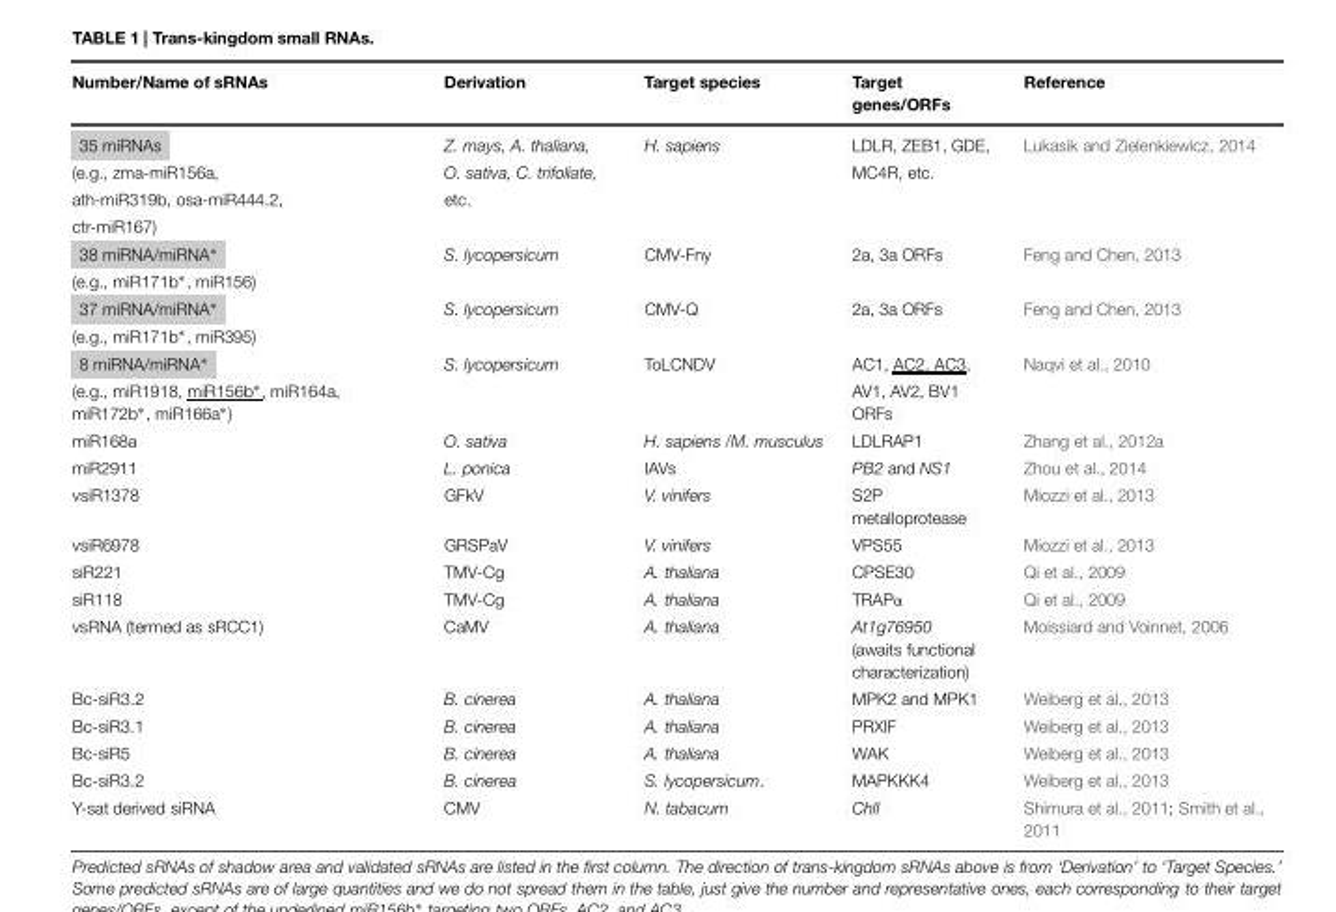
<table><thead><tr><td>Number/Name of sRNAs</td><td>Derivation</td><td>Target species</td><td>Target genes/ORFs</td><td>Reference</td></tr></thead><tbody><tr><td>35 miRNAs</td><td>Z. mays, A. thaliana,</td><td>H. sapiens</td><td>LDLR, ZEB1, GDE,</td><td>Lukasik and Zielenkiewicz, 2014</td></tr><tr><td>(e.g., zma-miR156a,</td><td>O. sativa, C. trifoliate,</td><td></td><td>MC4R, etc.</td><td></td></tr><tr><td>ath-miR319b, osa-miR444.2,</td><td>etc.</td><td></td><td></td><td></td></tr><tr><td colspan="5">ctr-miR167)</td></tr><tr><td>38 miRNA/miRNA∗</td><td>S. lycopersicum</td><td>CMV-Fny</td><td>2a, 3a ORFs</td><td>Feng and Chen, 2013</td></tr><tr><td colspan="5">(e.g., miR171b∗, miR156)</td></tr><tr><td>37 miRNA/miRNA∗</td><td>S. lycopersicum</td><td>CMV-Q</td><td>2a, 3a ORFs</td><td>Feng and Chen, 2013</td></tr><tr><td colspan="5">(e.g., miR171b∗, miR395)</td></tr><tr><td>8 miRNA/miRNA∗</td><td>S. lycopersicum</td><td>ToLCNDV</td><td>AC1, AC2, AC3,</td><td>Naqvi et al., 2010</td></tr><tr><td>(e.g., miR1918, miR156b∗, miR164a, miR172b∗, miR166a∗)</td><td></td><td></td><td>AV1, AV2, BV1 ORFs</td><td></td></tr><tr><td>miR168a</td><td>O. sativa</td><td>H. sapiens /M. musculus</td><td>LDLRAP1</td><td>Zhang et al., 2012a</td></tr><tr><td>miR2911</td><td>L. ponica</td><td>IAVs</td><td>PB2 and NS1</td><td>Zhou et al., 2014</td></tr><tr><td>vsiR1378</td><td>GFkV</td><td>V. vinifers</td><td>S2P metalloprotease</td><td>Miozzi et al., 2013</td></tr><tr><td>vsiR6978</td><td>GRSPaV</td><td>V. vinifers</td><td>VPS55</td><td>Miozzi et al., 2013</td></tr><tr><td>siR221</td><td>TMV-Cg</td><td>A. thaliana</td><td>CPSE30</td><td>Qi et al., 2009</td></tr><tr><td>siR118</td><td>TMV-Cg</td><td>A. thaliana</td><td>TRAPα</td><td>Qi et al., 2009</td></tr><tr><td>vsRNA (termed as sRCC1)</td><td>CaMV</td><td>A. thaliana</td><td>At1g76950 (awaits functional characterization)</td><td>Moissiard and Voinnet, 2006</td></tr><tr><td>Bc-siR3.2</td><td>B. cinerea</td><td>A. thaliana</td><td>MPK2 and MPK1</td><td>Weiberg et al., 2013</td></tr><tr><td>Bc-siR3.1</td><td>B. cinerea</td><td>A. thaliana</td><td>PRXIF</td><td>Weiberg et al., 2013</td></tr><tr><td>Bc-siR5</td><td>B. cinerea</td><td>A. thaliana</td><td>WAK</td><td>Weiberg et al., 2013</td></tr><tr><td>Bc-siR3.2</td><td>B. cinerea</td><td>S. lycopersicum.</td><td>MAPKKK4</td><td>Weiberg et al., 2013</td></tr><tr><td>Y-sat derived siRNA</td><td>CMV</td><td>N. tabacum</td><td>ChlI</td><td>Shimura et al., 2011; Smith et al., 2011</td></tr></tbody></table>